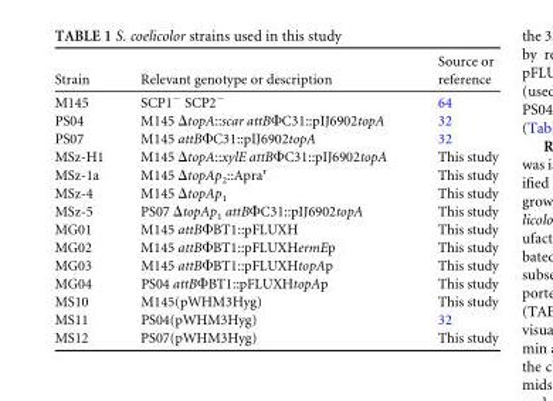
<table><thead><tr><td>Strain</td><td>Relevant genotype or description</td><td>Source or reference</td></tr></thead><tbody><tr><td>M145</td><td>SCP1<sup>−</sup> SCP2<sup>−</sup></td><td>64</td></tr><tr><td>PS04</td><td>M145 ΔtopA::scar attBΦC31::pIJ6902topA</td><td>32</td></tr><tr><td>PS07</td><td>M145 attBΦC31::pIJ6902topA</td><td>32</td></tr><tr><td>MSz-H1</td><td>M145 ΔtopA::xylE attBΦC31::pIJ6902topA</td><td>This study</td></tr><tr><td>MSz-1a</td><td>M145 ΔtopAp<sub>2</sub>::Apra<sup>r</sup></td><td>This study</td></tr><tr><td>MSz-4</td><td>M145 ΔtopAp<sub>1</sub></td><td>This study</td></tr><tr><td>MSz-5</td><td>PS07 ΔtopAp<sub>1</sub> attBΦC31::pIJ6902topA</td><td>This study</td></tr><tr><td>MG01</td><td>M145 attBΦBT1::pFLUXH</td><td>This study</td></tr><tr><td>MG02</td><td>M145 attBΦBT1::pFLUXHermEp</td><td>This study</td></tr><tr><td>MG03</td><td>M145 attBΦBT1::pFLUXHtopAp</td><td>This study</td></tr><tr><td>MG04</td><td>PS04 attBΦBT1::pFLUXHtopAp</td><td>This study</td></tr><tr><td>MS10</td><td>M145(pWHM3Hyg)</td><td>This study</td></tr><tr><td>MS11</td><td>PS04(pWHM3Hyg)</td><td>32</td></tr><tr><td>MS12</td><td>PS07(pWHM3Hyg)</td><td>This study</td></tr></tbody></table>